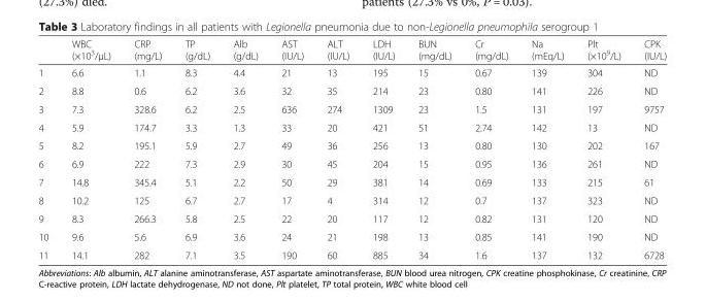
<table><thead><tr><td></td><td>WBC (×10<sup>3</sup>/μL)</td><td>CRP (mg/L)</td><td>TP (g/dL)</td><td>Alb (g/dL)</td><td>AST (IU/L)</td><td>ALT (IU/L)</td><td>LDH (IU/L)</td><td>BUN (mg/dL)</td><td>Cr (mg/dL)</td><td>Na (mEq/L)</td><td>Plt (×10<sup>9</sup>/L)</td><td>CPK (IU/L)</td></tr></thead><tbody><tr><td>1</td><td>6.6</td><td>1.1</td><td>8.3</td><td>4.4</td><td>21</td><td>13</td><td>195</td><td>15</td><td>0.67</td><td>139</td><td>304</td><td>ND</td></tr><tr><td>2</td><td>8.8</td><td>0.6</td><td>6.2</td><td>3.6</td><td>32</td><td>35</td><td>214</td><td>23</td><td>0.80</td><td>141</td><td>226</td><td>ND</td></tr><tr><td>3</td><td>7.3</td><td>328.6</td><td>6.2</td><td>2.5</td><td>636</td><td>274</td><td>1309</td><td>23</td><td>1.5</td><td>131</td><td>197</td><td>9757</td></tr><tr><td>4</td><td>5.9</td><td>174.7</td><td>3.3</td><td>1.3</td><td>33</td><td>20</td><td>421</td><td>51</td><td>2.74</td><td>142</td><td>13</td><td>ND</td></tr><tr><td>5</td><td>8.2</td><td>195.1</td><td>5.9</td><td>2.7</td><td>49</td><td>36</td><td>256</td><td>13</td><td>0.80</td><td>130</td><td>202</td><td>167</td></tr><tr><td>6</td><td>6.9</td><td>222</td><td>7.3</td><td>2.9</td><td>30</td><td>45</td><td>204</td><td>15</td><td>0.95</td><td>136</td><td>261</td><td>ND</td></tr><tr><td>7</td><td>14.8</td><td>345.4</td><td>5.1</td><td>2.2</td><td>50</td><td>29</td><td>381</td><td>14</td><td>0.69</td><td>133</td><td>215</td><td>61</td></tr><tr><td>8</td><td>10.2</td><td>125</td><td>6.7</td><td>2.7</td><td>17</td><td>4</td><td>314</td><td>12</td><td>0.7</td><td>137</td><td>323</td><td>ND</td></tr><tr><td>9</td><td>8.3</td><td>266.3</td><td>5.8</td><td>2.5</td><td>22</td><td>20</td><td>117</td><td>12</td><td>0.82</td><td>131</td><td>120</td><td>ND</td></tr><tr><td>10</td><td>9.6</td><td>5.6</td><td>6.9</td><td>3.6</td><td>24</td><td>21</td><td>198</td><td>13</td><td>0.85</td><td>141</td><td>190</td><td>ND</td></tr><tr><td>11</td><td>14.1</td><td>282</td><td>7.1</td><td>3.5</td><td>190</td><td>60</td><td>885</td><td>34</td><td>1.6</td><td>137</td><td>132</td><td>6728</td></tr></tbody></table>